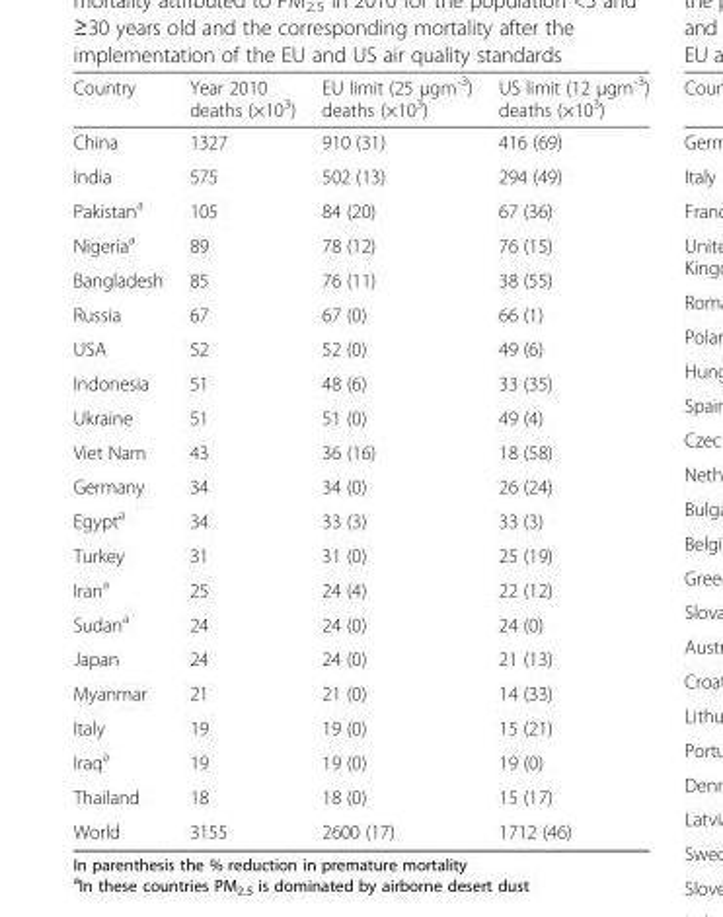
<table><thead><tr><td>Country</td><td>Year 2010 deaths (×10<sup>3</sup>)</td><td>EU limit (25 μgm<sup>-3</sup>) deaths (×10<sup>3</sup>)</td><td>US limit (12 μgm<sup>-3</sup>) deaths (×10<sup>3</sup>)</td></tr></thead><tbody><tr><td>China</td><td>1327</td><td>910 (31)</td><td>416 (69)</td></tr><tr><td>India</td><td>575</td><td>502 (13)</td><td>294 (49)</td></tr><tr><td>Pakistan<sup>a</sup></td><td>105</td><td>84 (20)</td><td>67 (36)</td></tr><tr><td>Nigeria<sup>a</sup></td><td>89</td><td>78 (12)</td><td>76 (15)</td></tr><tr><td>Bangladesh</td><td>85</td><td>76 (11)</td><td>38 (55)</td></tr><tr><td>Russia</td><td>67</td><td>67 (0)</td><td>66 (1)</td></tr><tr><td>USA</td><td>52</td><td>52 (0)</td><td>49 (6)</td></tr><tr><td>Indonesia</td><td>51</td><td>48 (6)</td><td>33 (35)</td></tr><tr><td>Ukraine</td><td>51</td><td>51 (0)</td><td>49 (4)</td></tr><tr><td>Viet Nam</td><td>43</td><td>36 (16)</td><td>18 (58)</td></tr><tr><td>Germany</td><td>34</td><td>34 (0)</td><td>26 (24)</td></tr><tr><td>Egypt<sup>a</sup></td><td>34</td><td>33 (3)</td><td>33 (3)</td></tr><tr><td>Turkey</td><td>31</td><td>31 (0)</td><td>25 (19)</td></tr><tr><td>Iran<sup>a</sup></td><td>25</td><td>24 (4)</td><td>22 (12)</td></tr><tr><td>Sudan<sup>a</sup></td><td>24</td><td>24 (0)</td><td>24 (0)</td></tr><tr><td>Japan</td><td>24</td><td>24 (0)</td><td>21 (13)</td></tr><tr><td>Myanmar</td><td>21</td><td>21 (0)</td><td>14 (33)</td></tr><tr><td>Italy</td><td>19</td><td>19 (0)</td><td>15 (21)</td></tr><tr><td>Iraq<sup>a</sup></td><td>19</td><td>19 (0)</td><td>19 (0)</td></tr><tr><td>Thailand</td><td>18</td><td>18 (0)</td><td>15 (17)</td></tr><tr><td>World</td><td>3155</td><td>2600 (17)</td><td>1712 (46)</td></tr></tbody></table>